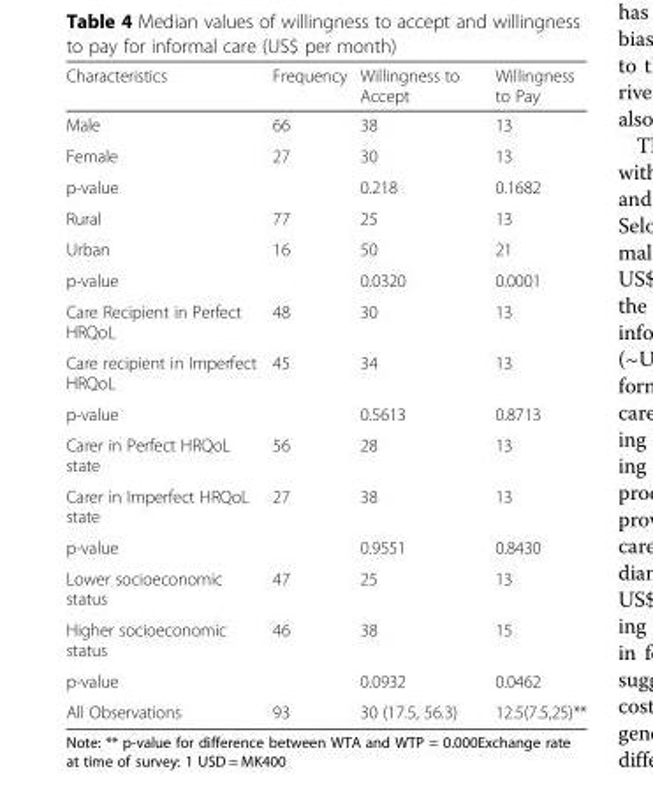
<table><thead><tr><td>Characteristics</td><td>Frequency</td><td>Willingness to Accept</td><td>Willingness to Pay</td></tr></thead><tbody><tr><td>Male</td><td>66</td><td>38</td><td>13</td></tr><tr><td>Female</td><td>27</td><td>30</td><td>13</td></tr><tr><td>p-value</td><td></td><td>0.218</td><td>0.1682</td></tr><tr><td>Rural</td><td>77</td><td>25</td><td>13</td></tr><tr><td>Urban</td><td>16</td><td>50</td><td>21</td></tr><tr><td>p-value</td><td></td><td>0.0320</td><td>0.0001</td></tr><tr><td>Care Recipient in Perfect HRQoL</td><td>48</td><td>30</td><td>13</td></tr><tr><td>Care recipient in Imperfect HRQoL</td><td>45</td><td>34</td><td>13</td></tr><tr><td>p-value</td><td></td><td>0.5613</td><td>0.8713</td></tr><tr><td>Carer in Perfect HRQoL state</td><td>56</td><td>28</td><td>13</td></tr><tr><td>Carer in Imperfect HRQoL state</td><td>27</td><td>38</td><td>13</td></tr><tr><td>p-value</td><td></td><td>0.9551</td><td>0.8430</td></tr><tr><td>Lower socioeconomic status</td><td>47</td><td>25</td><td>13</td></tr><tr><td>Higher socioeconomic status</td><td>46</td><td>38</td><td>15</td></tr><tr><td>p-value</td><td></td><td>0.0932</td><td>0.0462</td></tr><tr><td>All Observations</td><td>93</td><td>30 (17.5, 56.3)</td><td>12.5(7.5,25)**</td></tr></tbody></table>